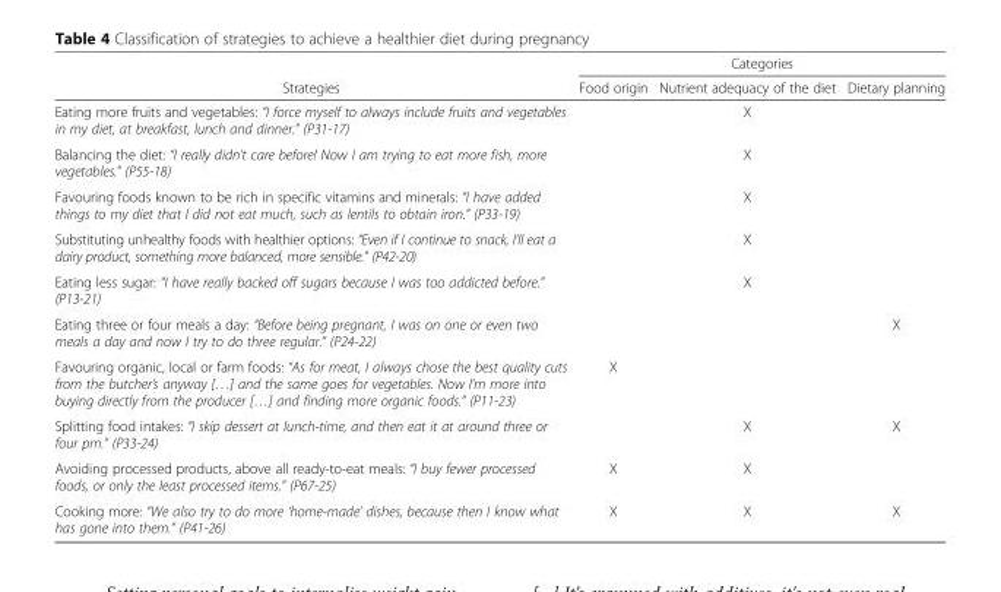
<table><thead><tr><td rowspan="2">Strategies</td><td colspan="3">Categories</td></tr><tr><td>Food origin</td><td>Nutrient adequacy of the diet</td><td>Dietary planning</td></tr></thead><tbody><tr><td>Eating more fruits and vegetables: “I force myself to always include fruits and vegetables in my diet, at breakfast, lunch and dinner.” (P31-17)</td><td></td><td>X</td><td></td></tr><tr><td>Balancing the diet: “I really didn’t care before! Now I am trying to eat more fish, more vegetables.” (P55-18)</td><td></td><td>X</td><td></td></tr><tr><td>Favouring foods known to be rich in specific vitamins and minerals: “I have added things to my diet that I did not eat much, such as lentils to obtain iron.” (P33-19)</td><td></td><td>X</td><td></td></tr><tr><td>Substituting unhealthy foods with healthier options: “Even if I continue to snack, I’ll eat a dairy product, something more balanced, more sensible.” (P42-20)</td><td></td><td>X</td><td></td></tr><tr><td>Eating less sugar: “I have really backed off sugars because I was too addicted before.” (P13-21)</td><td></td><td>X</td><td></td></tr><tr><td>Eating three or four meals a day: “Before being pregnant, I was on one or even two meals a day and now I try to do three regular.” (P24-22)</td><td></td><td></td><td>X</td></tr><tr><td>Favouring organic, local or farm foods: “As for meat, I always chose the best quality cuts from the butcher’s anyway […] and the same goes for vegetables. Now I’m more into buying directly from the producer […] and finding more organic foods.” (P11-23)</td><td>X</td><td></td><td></td></tr><tr><td>Splitting food intakes: “I skip dessert at lunch-time, and then eat it at around three or four pm.” (P33-24)</td><td></td><td>X</td><td>X</td></tr><tr><td>Avoiding processed products, above all ready-to-eat meals: “I buy fewer processed foods, or only the least processed items.” (P67-25)</td><td>X</td><td>X</td><td></td></tr><tr><td>Cooking more: “We also try to do more ‘home-made’ dishes, because then I know what has gone into them.” (P41-26)</td><td>X</td><td>X</td><td>X</td></tr></tbody></table>